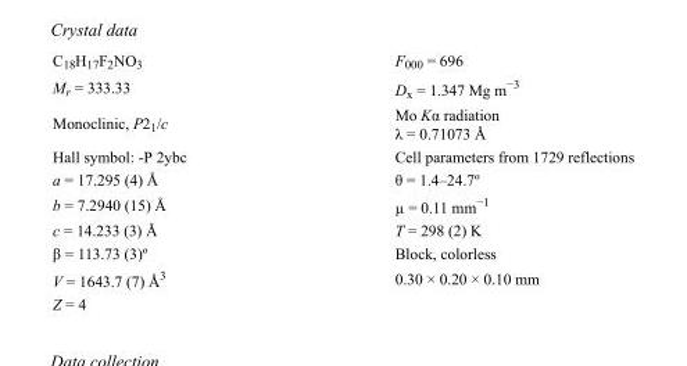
<table><tbody><tr><td>C<sub>18</sub>H<sub>17</sub>F<sub>2</sub>NO<sub>3</sub></td><td>F<sub>000</sub> = 696</td></tr><tr><td>M<sub>r</sub> = 333.33</td><td>D<sub>x</sub> = 1.347 Mg m<sup>−3</sup></td></tr><tr><td>Monoclinic, P2<sub>1</sub>/c</td><td>Mo Kα radiation λ = 0.71073 Å</td></tr><tr><td>Hall symbol: -P 2ybc</td><td>Cell parameters from 1729 reflections</td></tr><tr><td>a = 17.295 (4) Å</td><td>θ = 1.4–24.7º</td></tr><tr><td>b = 7.2940 (15) Å</td><td>µ = 0.11 mm<sup>−1</sup></td></tr><tr><td>c = 14.233 (3) Å</td><td>T = 298 (2) K</td></tr><tr><td>β = 113.73 (3)º</td><td>Block, colorless</td></tr><tr><td>V = 1643.7 (7) Å<sup>3</sup></td><td>0.30 × 0.20 × 0.10 mm</td></tr><tr><td>Z = 4</td><td></td></tr></tbody></table>